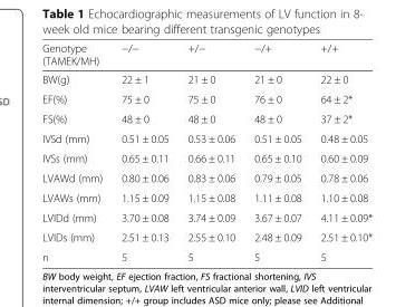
<table><thead><tr><td>Genotype (TAMEK/MH)</td><td>−/−</td><td>+/−</td><td>−/+</td><td>+/+</td></tr></thead><tbody><tr><td>BW(g)</td><td>22 ± 1</td><td>21 ± 0</td><td>21 ± 0</td><td>22 ± 0</td></tr><tr><td>EF(%)</td><td>75 ± 0</td><td>75 ± 0</td><td>76 ± 0</td><td>64 ± 2*</td></tr><tr><td>FS(%)</td><td>48 ± 0</td><td>48 ± 0</td><td>48 ± 0</td><td>37 ± 2*</td></tr><tr><td>IVSd (mm)</td><td>0.51 ± 0.05</td><td>0.53 ± 0.06</td><td>0.51 ± 0.05</td><td>0.48 ± 0.05</td></tr><tr><td>IVSs (mm)</td><td>0.65 ± 0.11</td><td>0.66 ± 0.11</td><td>0.65 ± 0.10</td><td>0.60 ± 0.09</td></tr><tr><td>LVAWd (mm)</td><td>0.80 ± 0.06</td><td>0.83 ± 0.06</td><td>0.79 ± 0.05</td><td>0.78 ± 0.06</td></tr><tr><td>LVAWs (mm)</td><td>1.15 ± 0.09</td><td>1.15 ± 0.08</td><td>1.11 ± 0.08</td><td>1.10 ± 0.08</td></tr><tr><td>LVIDd (mm)</td><td>3.70 ± 0.08</td><td>3.74 ± 0.09</td><td>3.67 ± 0.07</td><td>4.11 ± 0.09*</td></tr><tr><td>LVIDs (mm)</td><td>2.51 ± 0.13</td><td>2.55 ± 0.10</td><td>2.48 ± 0.09</td><td>2.51 ± 0.10*</td></tr><tr><td>n</td><td>5</td><td>5</td><td>5</td><td>5</td></tr></tbody></table>